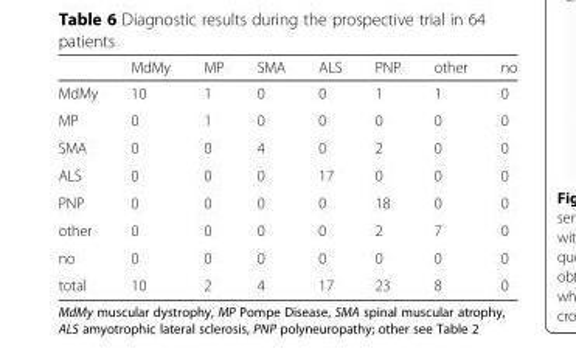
<table><thead><tr><td></td><td>MdMy</td><td>MP</td><td>SMA</td><td>ALS</td><td>PNP</td><td>other</td><td>no</td></tr></thead><tbody><tr><td>MdMy</td><td>10</td><td>1</td><td>0</td><td>0</td><td>1</td><td>1</td><td>0</td></tr><tr><td>MP</td><td>0</td><td>1</td><td>0</td><td>0</td><td>0</td><td>0</td><td>0</td></tr><tr><td>SMA</td><td>0</td><td>0</td><td>4</td><td>0</td><td>2</td><td>0</td><td>0</td></tr><tr><td>ALS</td><td>0</td><td>0</td><td>0</td><td>17</td><td>0</td><td>0</td><td>0</td></tr><tr><td>PNP</td><td>0</td><td>0</td><td>0</td><td>0</td><td>18</td><td>0</td><td>0</td></tr><tr><td>other</td><td>0</td><td>0</td><td>0</td><td>0</td><td>2</td><td>7</td><td>0</td></tr><tr><td>no</td><td>0</td><td>0</td><td>0</td><td>0</td><td>0</td><td>0</td><td>0</td></tr><tr><td>total</td><td>10</td><td>2</td><td>4</td><td>17</td><td>23</td><td>8</td><td>0</td></tr></tbody></table>